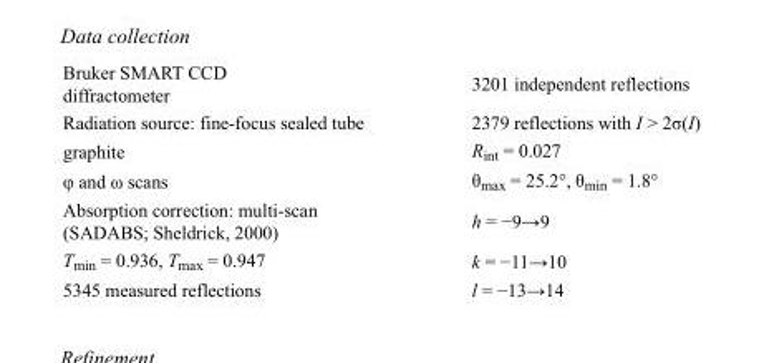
<table><tbody><tr><td>Bruker SMART CCD diffractometer</td><td>3201 independent reflections</td></tr><tr><td>Radiation source: fine-focus sealed tube</td><td>2379 reflections with I &gt; 2σ(I)</td></tr><tr><td>graphite</td><td>R<sub>int</sub> = 0.027</td></tr><tr><td>φ and ω scans</td><td>θ<sub>max</sub> = 25.2°, θ<sub>min</sub> = 1.8°</td></tr><tr><td>Absorption correction: multi-scan (SADABS; Sheldrick, 2000)</td><td>h = −9→9</td></tr><tr><td>T<sub>min</sub> = 0.936, T<sub>max</sub> = 0.947</td><td>k = −11→10</td></tr><tr><td>5345 measured reflections</td><td>l = −13→14</td></tr></tbody></table>